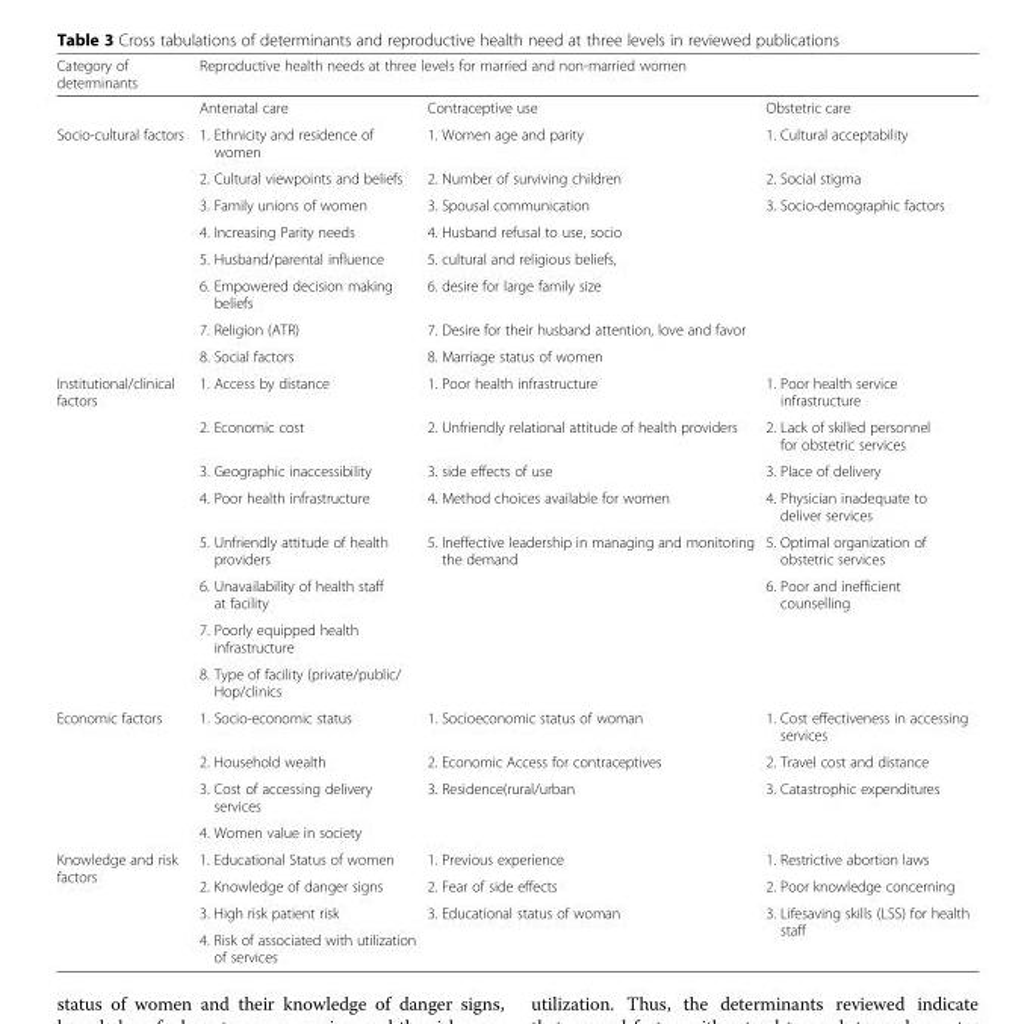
<table><thead><tr><td rowspan="2">Category of determinants</td><td colspan="3">Reproductive health needs at three levels for married and non-married women</td></tr><tr><td>Antenatal care</td><td>Contraceptive use</td><td>Obstetric care</td></tr></thead><tbody><tr><td rowspan="8">Socio-cultural factors</td><td>1. Ethnicity and residence of women</td><td>1. Women age and parity</td><td>1. Cultural acceptability</td></tr><tr><td>2. Cultural viewpoints and beliefs</td><td>2. Number of surviving children</td><td>2. Social stigma</td></tr><tr><td>3. Family unions of women</td><td>3. Spousal communication</td><td rowspan="6">3. Socio-demographic factors</td></tr><tr><td>4. Increasing Parity needs</td><td>4. Husband refusal to use, socio</td></tr><tr><td>5. Husband/parental influence</td><td>5. cultural and religious beliefs,</td></tr><tr><td>6. Empowered decision making beliefs</td><td>6. desire for large family size</td></tr><tr><td>7. Religion (ATR)</td><td>7. Desire for their husband attention, love and favor</td></tr><tr><td>8. Social factors</td><td>8. Marriage status of women</td></tr><tr><td rowspan="8">Institutional/clinical factors</td><td>1. Access by distance</td><td>1. Poor health infrastructure</td><td>1. Poor health service infrastructure</td></tr><tr><td>2. Economic cost</td><td>2. Unfriendly relational attitude of health providers</td><td>2. Lack of skilled personnel for obstetric services</td></tr><tr><td>3. Geographic inaccessibility</td><td>3. side effects of use</td><td>3. Place of delivery</td></tr><tr><td>4. Poor health infrastructure</td><td>4. Method choices available for women</td><td>4. Physician inadequate to deliver services</td></tr><tr><td>5. Unfriendly attitude of health providers</td><td rowspan="4">5. Ineffective leadership in managing and monitoring the demand</td><td>5. Optimal organization of obstetric services</td></tr><tr><td>6. Unavailability of health staff at facility</td><td rowspan="3">6. Poor and inefficient counselling</td></tr><tr><td>7. Poorly equipped health infrastructure</td></tr><tr><td>8. Type of facility (private/public/ Hop/clinics</td></tr><tr><td rowspan="4">Economic factors</td><td>1. Socio-economic status</td><td>1. Socioeconomic status of woman</td><td>1. Cost effectiveness in accessing services</td></tr><tr><td>2. Household wealth</td><td>2. Economic Access for contraceptives</td><td>2. Travel cost and distance</td></tr><tr><td>3. Cost of accessing delivery services</td><td rowspan="2">3. Residence(rural/urban</td><td rowspan="2">3. Catastrophic expenditures</td></tr><tr><td>4. Women value in society</td></tr><tr><td rowspan="4">Knowledge and risk factors</td><td>1. Educational Status of women</td><td>1. Previous experience</td><td>1. Restrictive abortion laws</td></tr><tr><td>2. Knowledge of danger signs</td><td>2. Fear of side effects</td><td>2. Poor knowledge concerning</td></tr><tr><td>3. High risk patient risk</td><td rowspan="2">3. Educational status of woman</td><td rowspan="2">3. Lifesaving skills (LSS) for health staff</td></tr><tr><td>4. Risk of associated with utilization of services</td></tr></tbody></table>